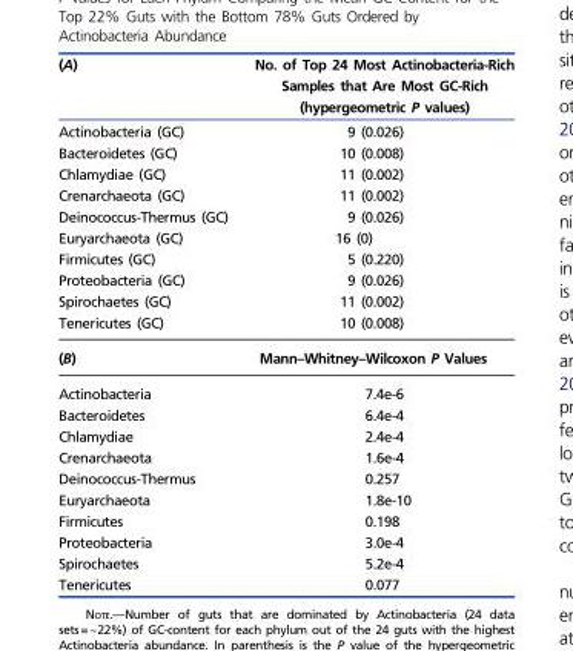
<table><thead><tr><td rowspan="2">(A)</td><td rowspan="2">No. of Top 24 Most Actinobacteria-Rich Samples that Are Most GC-Rich (hypergeometric P values)</td></tr><tr></tr></thead><tbody><tr><td>Actinobacteria (GC)</td><td>9 (0.026)</td></tr><tr><td>Bacteroidetes (GC)</td><td>10 (0.008)</td></tr><tr><td>Chlamydiae (GC)</td><td>11 (0.002)</td></tr><tr><td>Crenarchaeota (GC)</td><td>11 (0.002)</td></tr><tr><td>Deinococcus-Thermus (GC)</td><td>9 (0.026)</td></tr><tr><td>Euryarchaeota (GC)</td><td>16 (0)</td></tr><tr><td>Firmicutes (GC)</td><td>5 (0.220)</td></tr><tr><td>Proteobacteria (GC)</td><td>9 (0.026)</td></tr><tr><td>Spirochaetes (GC)</td><td>11 (0.002)</td></tr><tr><td>Tenericutes (GC)</td><td>10 (0.008)</td></tr><tr><td>(B)</td><td>Mann–Whitney–Wilcoxon P Values</td></tr><tr><td>Actinobacteria</td><td>7.4e-6</td></tr><tr><td>Bacteroidetes</td><td>6.4e-4</td></tr><tr><td>Chlamydiae</td><td>2.4e-4</td></tr><tr><td>Crenarchaeota</td><td>1.6e-4</td></tr><tr><td>Deinococcus-Thermus</td><td>0.257</td></tr><tr><td>Euryarchaeota</td><td>1.8e-10</td></tr><tr><td>Firmicutes</td><td>0.198</td></tr><tr><td>Proteobacteria</td><td>3.0e-4</td></tr><tr><td>Spirochaetes</td><td>5.2e-4</td></tr><tr><td>Tenericutes</td><td>0.077</td></tr></tbody></table>